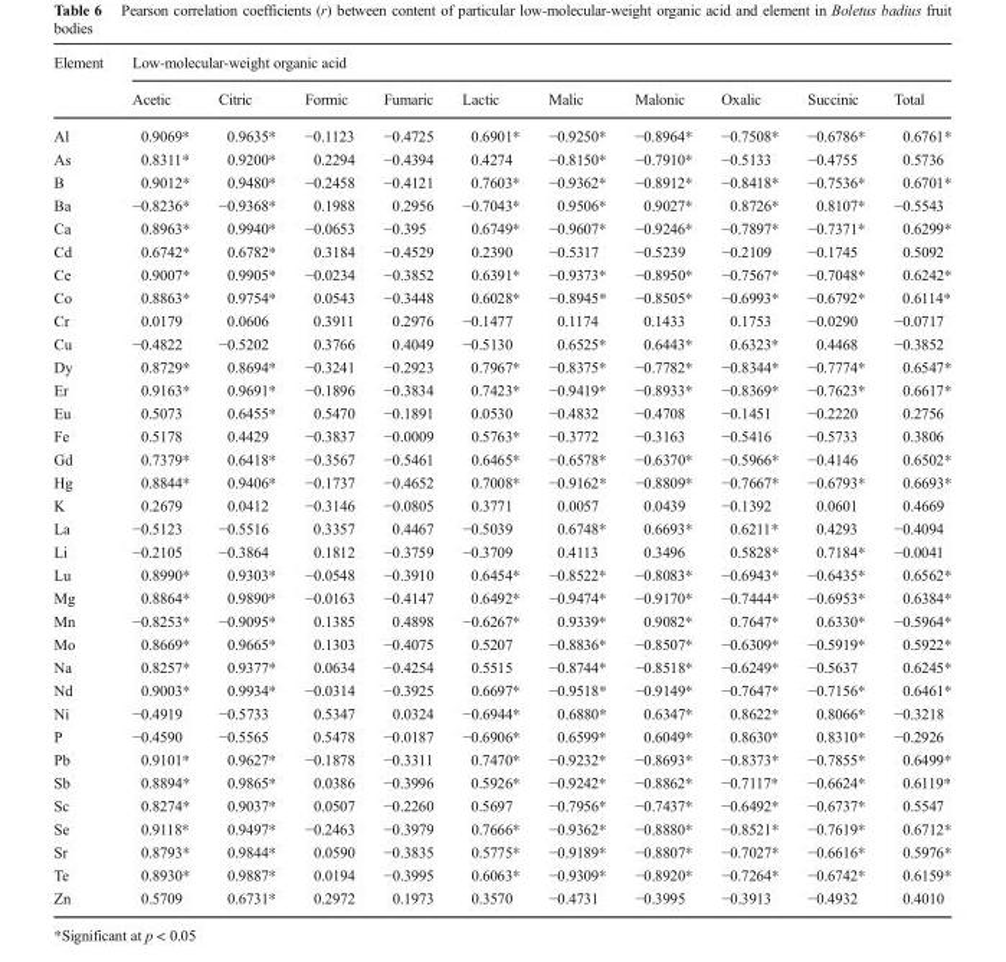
<table><thead><tr><td rowspan="2">Element</td><td colspan="10">Low-molecular-weight organic acid</td></tr><tr><td>Acetic</td><td>Citric</td><td>Formic</td><td>Fumaric</td><td>Lactic</td><td>Malic</td><td>Malonic</td><td>Oxalic</td><td>Succinic</td><td>Total</td></tr></thead><tbody><tr><td>Al</td><td>0.9069*</td><td>0.9635*</td><td>−0.1123</td><td>−0.4725</td><td>0.6901*</td><td>−0.9250*</td><td>−0.8964*</td><td>−0.7508*</td><td>−0.6786*</td><td>0.6761*</td></tr><tr><td>As</td><td>0.8311*</td><td>0.9200*</td><td>0.2294</td><td>−0.4394</td><td>0.4274</td><td>−0.8150*</td><td>−0.7910*</td><td>−0.5133</td><td>−0.4755</td><td>0.5736</td></tr><tr><td>B</td><td>0.9012*</td><td>0.9480*</td><td>−0.2458</td><td>−0.4121</td><td>0.7603*</td><td>−0.9362*</td><td>−0.8912*</td><td>−0.8418*</td><td>−0.7536*</td><td>0.6701*</td></tr><tr><td>Ba</td><td>−0.8236*</td><td>−0.9368*</td><td>0.1988</td><td>0.2956</td><td>−0.7043*</td><td>0.9506*</td><td>0.9027*</td><td>0.8726*</td><td>0.8107*</td><td>−0.5543</td></tr><tr><td>Ca</td><td>0.8963*</td><td>0.9940*</td><td>−0.0653</td><td>−0.395</td><td>0.6749*</td><td>−0.9607*</td><td>−0.9246*</td><td>−0.7897*</td><td>−0.7371*</td><td>0.6299*</td></tr><tr><td>Cd</td><td>0.6742*</td><td>0.6782*</td><td>0.3184</td><td>−0.4529</td><td>0.2390</td><td>−0.5317</td><td>−0.5239</td><td>−0.2109</td><td>−0.1745</td><td>0.5092</td></tr><tr><td>Ce</td><td>0.9007*</td><td>0.9905*</td><td>−0.0234</td><td>−0.3852</td><td>0.6391*</td><td>−0.9373*</td><td>−0.8950*</td><td>−0.7567*</td><td>−0.7048*</td><td>0.6242*</td></tr><tr><td>Co</td><td>0.8863*</td><td>0.9754*</td><td>0.0543</td><td>−0.3448</td><td>0.6028*</td><td>−0.8945*</td><td>−0.8505*</td><td>−0.6993*</td><td>−0.6792*</td><td>0.6114*</td></tr><tr><td>Cr</td><td>0.0179</td><td>0.0606</td><td>0.3911</td><td>0.2976</td><td>−0.1477</td><td>0.1174</td><td>0.1433</td><td>0.1753</td><td>−0.0290</td><td>−0.0717</td></tr><tr><td>Cu</td><td>−0.4822</td><td>−0.5202</td><td>0.3766</td><td>0.4049</td><td>−0.5130</td><td>0.6525*</td><td>0.6443*</td><td>0.6323*</td><td>0.4468</td><td>−0.3852</td></tr><tr><td>Dy</td><td>0.8729*</td><td>0.8694*</td><td>−0.3241</td><td>−0.2923</td><td>0.7967*</td><td>−0.8375*</td><td>−0.7782*</td><td>−0.8344*</td><td>−0.7774*</td><td>0.6547*</td></tr><tr><td>Er</td><td>0.9163*</td><td>0.9691*</td><td>−0.1896</td><td>−0.3834</td><td>0.7423*</td><td>−0.9419*</td><td>−0.8933*</td><td>−0.8369*</td><td>−0.7623*</td><td>0.6617*</td></tr><tr><td>Eu</td><td>0.5073</td><td>0.6455*</td><td>0.5470</td><td>−0.1891</td><td>0.0530</td><td>−0.4832</td><td>−0.4708</td><td>−0.1451</td><td>−0.2220</td><td>0.2756</td></tr><tr><td>Fe</td><td>0.5178</td><td>0.4429</td><td>−0.3837</td><td>−0.0009</td><td>0.5763*</td><td>−0.3772</td><td>−0.3163</td><td>−0.5416</td><td>−0.5733</td><td>0.3806</td></tr><tr><td>Gd</td><td>0.7379*</td><td>0.6418*</td><td>−0.3567</td><td>−0.5461</td><td>0.6465*</td><td>−0.6578*</td><td>−0.6370*</td><td>−0.5966*</td><td>−0.4146</td><td>0.6502*</td></tr><tr><td>Hg</td><td>0.8844*</td><td>0.9406*</td><td>−0.1737</td><td>−0.4652</td><td>0.7008*</td><td>−0.9162*</td><td>−0.8809*</td><td>−0.7667*</td><td>−0.6793*</td><td>0.6693*</td></tr><tr><td>K</td><td>0.2679</td><td>0.0412</td><td>−0.3146</td><td>−0.0805</td><td>0.3771</td><td>0.0057</td><td>0.0439</td><td>−0.1392</td><td>0.0601</td><td>0.4669</td></tr><tr><td>La</td><td>−0.5123</td><td>−0.5516</td><td>0.3357</td><td>0.4467</td><td>−0.5039</td><td>0.6748*</td><td>0.6693*</td><td>0.6211*</td><td>0.4293</td><td>−0.4094</td></tr><tr><td>Li</td><td>−0.2105</td><td>−0.3864</td><td>0.1812</td><td>−0.3759</td><td>−0.3709</td><td>0.4113</td><td>0.3496</td><td>0.5828*</td><td>0.7184*</td><td>−0.0041</td></tr><tr><td>Lu</td><td>0.8990*</td><td>0.9303*</td><td>−0.0548</td><td>−0.3910</td><td>0.6454*</td><td>−0.8522*</td><td>−0.8083*</td><td>−0.6943*</td><td>−0.6435*</td><td>0.6562*</td></tr><tr><td>Mg</td><td>0.8864*</td><td>0.9890*</td><td>−0.0163</td><td>−0.4147</td><td>0.6492*</td><td>−0.9474*</td><td>−0.9170*</td><td>−0.7444*</td><td>−0.6953*</td><td>0.6384*</td></tr><tr><td>Mn</td><td>−0.8253*</td><td>−0.9095*</td><td>0.1385</td><td>0.4898</td><td>−0.6267*</td><td>0.9339*</td><td>0.9082*</td><td>0.7647*</td><td>0.6330*</td><td>−0.5964*</td></tr><tr><td>Mo</td><td>0.8669*</td><td>0.9665*</td><td>0.1303</td><td>−0.4075</td><td>0.5207</td><td>−0.8836*</td><td>−0.8507*</td><td>−0.6309*</td><td>−0.5919*</td><td>0.5922*</td></tr><tr><td>Na</td><td>0.8257*</td><td>0.9377*</td><td>0.0634</td><td>−0.4254</td><td>0.5515</td><td>−0.8744*</td><td>−0.8518*</td><td>−0.6249*</td><td>−0.5637</td><td>0.6245*</td></tr><tr><td>Nd</td><td>0.9003*</td><td>0.9934*</td><td>−0.0314</td><td>−0.3925</td><td>0.6697*</td><td>−0.9518*</td><td>−0.9149*</td><td>−0.7647*</td><td>−0.7156*</td><td>0.6461*</td></tr><tr><td>Ni</td><td>−0.4919</td><td>−0.5733</td><td>0.5347</td><td>0.0324</td><td>−0.6944*</td><td>0.6880*</td><td>0.6347*</td><td>0.8622*</td><td>0.8066*</td><td>−0.3218</td></tr><tr><td>P</td><td>−0.4590</td><td>−0.5565</td><td>0.5478</td><td>−0.0187</td><td>−0.6906*</td><td>0.6599*</td><td>0.6049*</td><td>0.8630*</td><td>0.8310*</td><td>−0.2926</td></tr><tr><td>Pb</td><td>0.9101*</td><td>0.9627*</td><td>−0.1878</td><td>−0.3311</td><td>0.7470*</td><td>−0.9232*</td><td>−0.8693*</td><td>−0.8373*</td><td>−0.7855*</td><td>0.6499*</td></tr><tr><td>Sb</td><td>0.8894*</td><td>0.9865*</td><td>0.0386</td><td>−0.3996</td><td>0.5926*</td><td>−0.9242*</td><td>−0.8862*</td><td>−0.7117*</td><td>−0.6624*</td><td>0.6119*</td></tr><tr><td>Sc</td><td>0.8274*</td><td>0.9037*</td><td>0.0507</td><td>−0.2260</td><td>0.5697</td><td>−0.7956*</td><td>−0.7437*</td><td>−0.6492*</td><td>−0.6737*</td><td>0.5547</td></tr><tr><td>Se</td><td>0.9118*</td><td>0.9497*</td><td>−0.2463</td><td>−0.3979</td><td>0.7666*</td><td>−0.9362*</td><td>−0.8880*</td><td>−0.8521*</td><td>−0.7619*</td><td>0.6712*</td></tr><tr><td>Sr</td><td>0.8793*</td><td>0.9844*</td><td>0.0590</td><td>−0.3835</td><td>0.5775*</td><td>−0.9189*</td><td>−0.8807*</td><td>−0.7027*</td><td>−0.6616*</td><td>0.5976*</td></tr><tr><td>Te</td><td>0.8930*</td><td>0.9887*</td><td>0.0194</td><td>−0.3995</td><td>0.6063*</td><td>−0.9309*</td><td>−0.8920*</td><td>−0.7264*</td><td>−0.6742*</td><td>0.6159*</td></tr><tr><td>Zn</td><td>0.5709</td><td>0.6731*</td><td>0.2972</td><td>0.1973</td><td>0.3570</td><td>−0.4731</td><td>−0.3995</td><td>−0.3913</td><td>−0.4932</td><td>0.4010</td></tr></tbody></table>